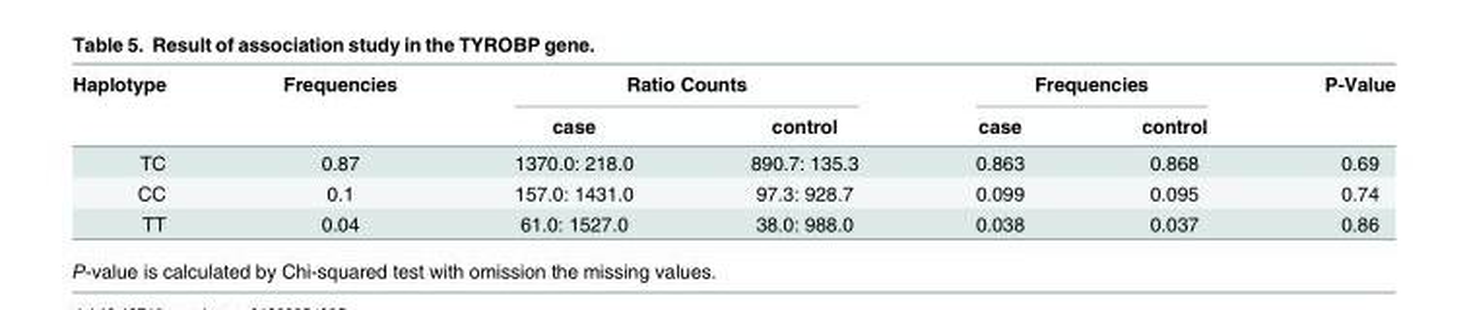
<table><thead><tr><td rowspan="2">Haplotype</td><td rowspan="2">Frequencies</td><td colspan="2">Ratio Counts</td><td colspan="2">Frequencies</td><td rowspan="2">P-Value</td></tr><tr><td>case</td><td>control</td><td>case</td><td>control</td></tr></thead><tbody><tr><td>TC</td><td>0.87</td><td>1370.0: 218.0</td><td>890.7: 135.3</td><td>0.863</td><td>0.868</td><td>0.69</td></tr><tr><td>CC</td><td>0.1</td><td>157.0: 1431.0</td><td>97.3: 928.7</td><td>0.099</td><td>0.095</td><td>0.74</td></tr><tr><td>TT</td><td>0.04</td><td>61.0: 1527.0</td><td>38.0: 988.0</td><td>0.038</td><td>0.037</td><td>0.86</td></tr></tbody></table>